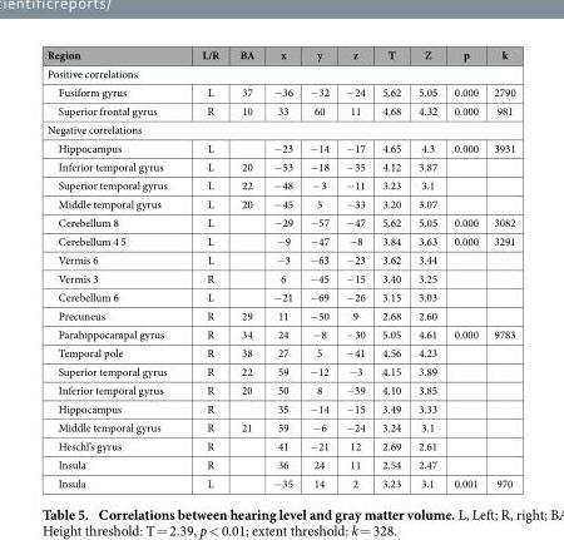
<table><thead><tr><td>Region</td><td>L/R</td><td>BA</td><td>x</td><td>y</td><td>z</td><td>T</td><td>Z</td><td>p</td><td>k</td></tr></thead><tbody><tr><td colspan="10">Positive correlations</td></tr><tr><td>Fusiform gyrus</td><td>L</td><td>37</td><td>− 36</td><td>− 32</td><td>− 24</td><td>5.62</td><td>5.05</td><td>0.000</td><td>2790</td></tr><tr><td>Superior frontal gyrus</td><td>R</td><td>10</td><td>33</td><td>60</td><td>11</td><td>4.68</td><td>4.32</td><td>0.000</td><td>981</td></tr><tr><td colspan="10">Negative correlations</td></tr><tr><td>Hippocampus</td><td>L</td><td></td><td>− 23</td><td>− 14</td><td>− 17</td><td>4.65</td><td>4.3</td><td>0.000</td><td>3931</td></tr><tr><td>Inferior temporal gyrus</td><td>L</td><td>20</td><td>− 53</td><td>− 18</td><td>− 35</td><td>4.12</td><td>3.87</td><td></td><td></td></tr><tr><td>Superior temporal gyrus</td><td>L</td><td>22</td><td>− 48</td><td>− 3</td><td>− 11</td><td>3.23</td><td>3.1</td><td></td><td></td></tr><tr><td>Middle temporal gyrus</td><td>L</td><td>20</td><td>− 45</td><td>5</td><td>− 33</td><td>3.20</td><td>3.07</td><td></td><td></td></tr><tr><td>Cerebellum 8</td><td>L</td><td></td><td>− 29</td><td>− 57</td><td>− 47</td><td>5.62</td><td>5.05</td><td>0.000</td><td>3082</td></tr><tr><td>Cerebellum 4 5</td><td>L</td><td></td><td>− 9</td><td>− 47</td><td>− 8</td><td>3.84</td><td>3.63</td><td>0.000</td><td>3291</td></tr><tr><td>Vermis 6</td><td>L</td><td></td><td>− 3</td><td>− 63</td><td>− 23</td><td>3.62</td><td>3.44</td><td></td><td></td></tr><tr><td>Vermis 3</td><td>R</td><td></td><td>6</td><td>− 45</td><td>− 15</td><td>3.40</td><td>3.25</td><td></td><td></td></tr><tr><td>Cerebellum 6</td><td>L</td><td></td><td>− 21</td><td>− 69</td><td>− 26</td><td>3.15</td><td>3.03</td><td></td><td></td></tr><tr><td>Precuneus</td><td>R</td><td>29</td><td>11</td><td>− 50</td><td>9</td><td>2.68</td><td>2.60</td><td></td><td></td></tr><tr><td>Parahippocampal gyrus</td><td>R</td><td>34</td><td>24</td><td>− 8</td><td>− 30</td><td>5.05</td><td>4.61</td><td>0.000</td><td>9783</td></tr><tr><td>Temporal pole</td><td>R</td><td>38</td><td>27</td><td>5</td><td>− 41</td><td>4.56</td><td>4.23</td><td></td><td></td></tr><tr><td>Superior temporal gyrus</td><td>R</td><td>22</td><td>59</td><td>− 12</td><td>− 3</td><td>4.15</td><td>3.89</td><td></td><td></td></tr><tr><td>Inferior temporal gyrus</td><td>R</td><td>20</td><td>50</td><td>8</td><td>− 39</td><td>4.10</td><td>3.85</td><td></td><td></td></tr><tr><td>Hippocampus</td><td>R</td><td></td><td>35</td><td>− 14</td><td>− 15</td><td>3.49</td><td>3.33</td><td></td><td></td></tr><tr><td>Middle temporal gyrus</td><td>R</td><td>21</td><td>59</td><td>− 6</td><td>− 24</td><td>3.24</td><td>3.1</td><td></td><td></td></tr><tr><td>Heschl’s gyrus</td><td>R</td><td></td><td>41</td><td>− 21</td><td>12</td><td>2.69</td><td>2.61</td><td></td><td></td></tr><tr><td>Insula</td><td>R</td><td></td><td>36</td><td>24</td><td>11</td><td>2.54</td><td>2.47</td><td></td><td></td></tr><tr><td>Insula</td><td>L</td><td></td><td>− 35</td><td>14</td><td>2</td><td>3.23</td><td>3.1</td><td>0.001</td><td>970</td></tr></tbody></table>